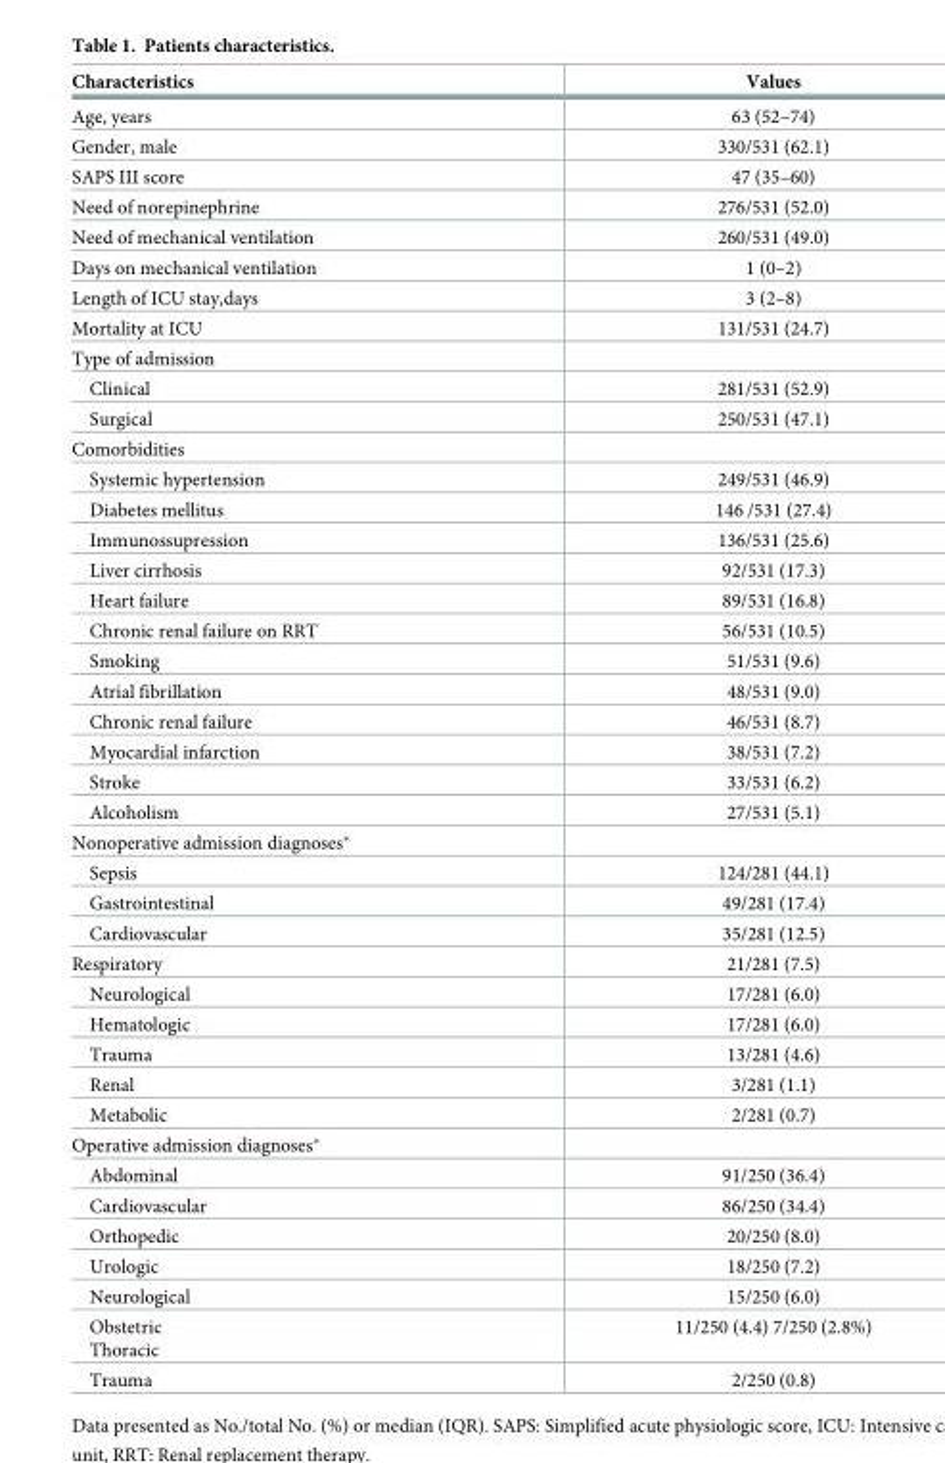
<table><thead><tr><td>Characteristics</td><td>Values</td></tr></thead><tbody><tr><td>Age, years</td><td>63 (52–74)</td></tr><tr><td>Gender, male</td><td>330/531 (62.1)</td></tr><tr><td>SAPS III score</td><td>47 (35–60)</td></tr><tr><td>Need of norepinephrine</td><td>276/531 (52.0)</td></tr><tr><td>Need of mechanical ventilation</td><td>260/531 (49.0)</td></tr><tr><td>Days on mechanical ventilation</td><td>1 (0–2)</td></tr><tr><td>Length of ICU stay,days</td><td>3 (2–8)</td></tr><tr><td>Mortality at ICU</td><td>131/531 (24.7)</td></tr><tr><td colspan="2">Type of admission</td></tr><tr><td>Clinical</td><td>281/531 (52.9)</td></tr><tr><td>Surgical</td><td>250/531 (47.1)</td></tr><tr><td colspan="2">Comorbidities</td></tr><tr><td>Systemic hypertension</td><td>249/531 (46.9)</td></tr><tr><td>Diabetes mellitus</td><td>146 /531 (27.4)</td></tr><tr><td>Immunossupression</td><td>136/531 (25.6)</td></tr><tr><td>Liver cirrhosis</td><td>92/531 (17.3)</td></tr><tr><td>Heart failure</td><td>89/531 (16.8)</td></tr><tr><td>Chronic renal failure on RRT</td><td>56/531 (10.5)</td></tr><tr><td>Smoking</td><td>51/531 (9.6)</td></tr><tr><td>Atrial fibrillation</td><td>48/531 (9.0)</td></tr><tr><td>Chronic renal failure</td><td>46/531 (8.7)</td></tr><tr><td>Myocardial infarction</td><td>38/531 (7.2)</td></tr><tr><td>Stroke</td><td>33/531 (6.2)</td></tr><tr><td>Alcoholism</td><td>27/531 (5.1)</td></tr><tr><td colspan="2">Nonoperative admission diagnoses*</td></tr><tr><td>Sepsis</td><td>124/281 (44.1)</td></tr><tr><td>Gastrointestinal</td><td>49/281 (17.4)</td></tr><tr><td>Cardiovascular</td><td>35/281 (12.5)</td></tr><tr><td>Respiratory</td><td>21/281 (7.5)</td></tr><tr><td>Neurological</td><td>17/281 (6.0)</td></tr><tr><td>Hematologic</td><td>17/281 (6.0)</td></tr><tr><td>Trauma</td><td>13/281 (4.6)</td></tr><tr><td>Renal</td><td>3/281 (1.1)</td></tr><tr><td>Metabolic</td><td>2/281 (0.7)</td></tr><tr><td colspan="2">Operative admission diagnoses*</td></tr><tr><td>Abdominal</td><td>91/250 (36.4)</td></tr><tr><td>Cardiovascular</td><td>86/250 (34.4)</td></tr><tr><td>Orthopedic</td><td>20/250 (8.0)</td></tr><tr><td>Urologic</td><td>18/250 (7.2)</td></tr><tr><td>Neurological</td><td>15/250 (6.0)</td></tr><tr><td>Obstetric Thoracic</td><td>11/250 (4.4) 7/250 (2.8%)</td></tr><tr><td>Trauma</td><td>2/250 (0.8)</td></tr></tbody></table>